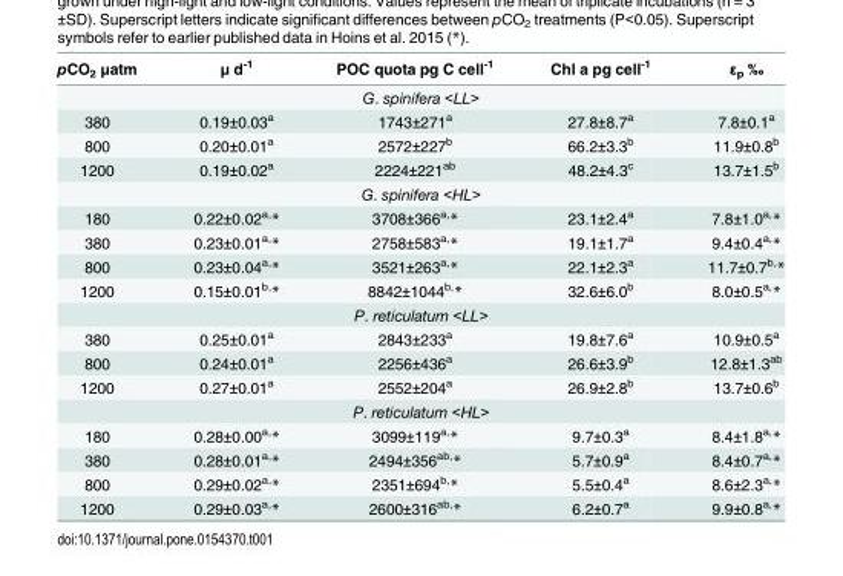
<table><thead><tr><td>pCO<sub>2</sub> μatm</td><td>μ d<sup>-1</sup></td><td>POC quota pg C cell<sup>-1</sup></td><td>Chl a pg cell<sup>-1</sup></td><td>ε<sub>p</sub> ‰</td></tr></thead><tbody><tr><td colspan="5">G. spinifera &lt;LL&gt;</td></tr><tr><td>380</td><td>0.19±0.03<sup>a</sup></td><td>1743±271<sup>a</sup></td><td>27.8±8.7<sup>a</sup></td><td>7.8±0.1<sup>a</sup></td></tr><tr><td>800</td><td>0.20±0.01<sup>a</sup></td><td>2572±227<sup>b</sup></td><td>66.2±3.3<sup>b</sup></td><td>11.9±0.8<sup>b</sup></td></tr><tr><td>1200</td><td>0.19±0.02<sup>a</sup></td><td>2224±221<sup>ab</sup></td><td>48.2±4.3<sup>c</sup></td><td>13.7±1.5<sup>b</sup></td></tr><tr><td colspan="5">G. spinifera &lt;HL&gt;</td></tr><tr><td>180</td><td>0.22±0.02<sup>a,</sup>*</td><td>3708±366<sup>a,</sup>*</td><td>23.1±2.4<sup>a</sup></td><td>7.8±1.0<sup>a,</sup>*</td></tr><tr><td>380</td><td>0.23±0.01<sup>a,</sup>*</td><td>2758±583<sup>a,</sup>*</td><td>19.1±1.7<sup>a</sup></td><td>9.4±0.4<sup>a,</sup>*</td></tr><tr><td>800</td><td>0.23±0.04<sup>a,</sup>*</td><td>3521±263<sup>a,</sup>*</td><td>22.1±2.3<sup>a</sup></td><td>11.7±0.7<sup>b,</sup>*</td></tr><tr><td>1200</td><td>0.15±0.01<sup>b,</sup>*</td><td>8842±1044<sup>b,</sup>*</td><td>32.6±6.0<sup>b</sup></td><td>8.0±0.5<sup>a,</sup>*</td></tr><tr><td colspan="5">P. reticulatum &lt;LL&gt;</td></tr><tr><td>380</td><td>0.25±0.01<sup>a</sup></td><td>2843±233<sup>a</sup></td><td>19.8±7.6<sup>a</sup></td><td>10.9±0.5<sup>a</sup></td></tr><tr><td>800</td><td>0.24±0.01<sup>a</sup></td><td>2256±436<sup>a</sup></td><td>26.6±3.9<sup>b</sup></td><td>12.8±1.3<sup>ab</sup></td></tr><tr><td>1200</td><td>0.27±0.01<sup>a</sup></td><td>2552±204<sup>a</sup></td><td>26.9±2.8<sup>b</sup></td><td>13.7±0.6<sup>b</sup></td></tr><tr><td colspan="5">P. reticulatum &lt;HL&gt;</td></tr><tr><td>180</td><td>0.28±0.00<sup>a,</sup>*</td><td>3099±119<sup>a,</sup>*</td><td>9.7±0.3<sup>a</sup></td><td>8.4±1.8<sup>a,</sup>*</td></tr><tr><td>380</td><td>0.28±0.01<sup>a,</sup>*</td><td>2494±356<sup>ab,</sup>*</td><td>5.7±0.9<sup>a</sup></td><td>8.4±0.7<sup>a,</sup>*</td></tr><tr><td>800</td><td>0.29±0.02<sup>a,</sup>*</td><td>2351±694<sup>b,</sup>*</td><td>5.5±0.4<sup>a</sup></td><td>8.6±2.3<sup>a,</sup>*</td></tr><tr><td>1200</td><td>0.29±0.03<sup>a,</sup>*</td><td>2600±316<sup>ab,</sup>*</td><td>6.2±0.7<sup>a</sup></td><td>9.9±0.8<sup>a,</sup>*</td></tr></tbody></table>